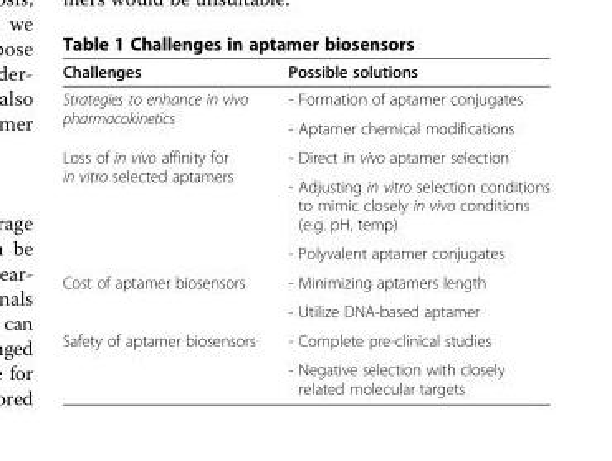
<table><thead><tr><td>Challenges</td><td>Possible solutions</td></tr></thead><tbody><tr><td rowspan="2">Strategies to enhance in vivo pharmacokinetics</td><td>- Formation of aptamer conjugates</td></tr><tr><td>- Aptamer chemical modifications</td></tr><tr><td rowspan="3">Loss of in vivo affinity for in vitro selected aptamers</td><td>- Direct in vivo aptamer selection</td></tr><tr><td>- Adjusting in vitro selection conditions to mimic closely in vivo conditions (e.g. pH, temp)</td></tr><tr><td>- Polyvalent aptamer conjugates</td></tr><tr><td rowspan="2">Cost of aptamer biosensors</td><td>- Minimizing aptamers length</td></tr><tr><td>- Utilize DNA-based aptamer</td></tr><tr><td rowspan="2">Safety of aptamer biosensors</td><td>- Complete pre-clinical studies</td></tr><tr><td>- Negative selection with closely related molecular targets</td></tr></tbody></table>